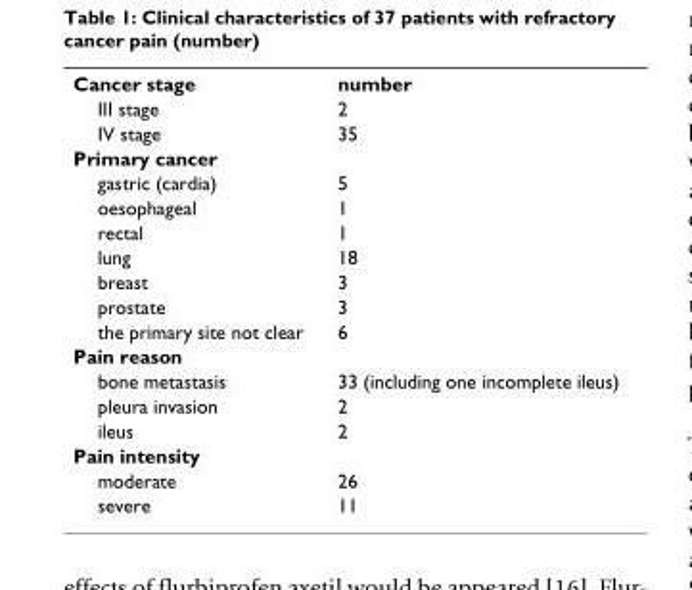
<table><tbody><tr><td>Cancer stage</td><td>number</td></tr><tr><td>III stage</td><td>2</td></tr><tr><td>IV stage</td><td>35</td></tr><tr><td colspan="2">Primary cancer</td></tr><tr><td>gastric (cardia)</td><td>5</td></tr><tr><td>oesophageal</td><td>1</td></tr><tr><td>rectal</td><td>1</td></tr><tr><td>lung</td><td>18</td></tr><tr><td>breast</td><td>3</td></tr><tr><td>prostate</td><td>3</td></tr><tr><td>the primary site not clear</td><td>6</td></tr><tr><td colspan="2">Pain reason</td></tr><tr><td>bone metastasis</td><td>33 (including one incomplete ileus)</td></tr><tr><td>pleura invasion</td><td>2</td></tr><tr><td>ileus</td><td>2</td></tr><tr><td colspan="2">Pain intensity</td></tr><tr><td>moderate</td><td>26</td></tr><tr><td>severe</td><td>11</td></tr></tbody></table>